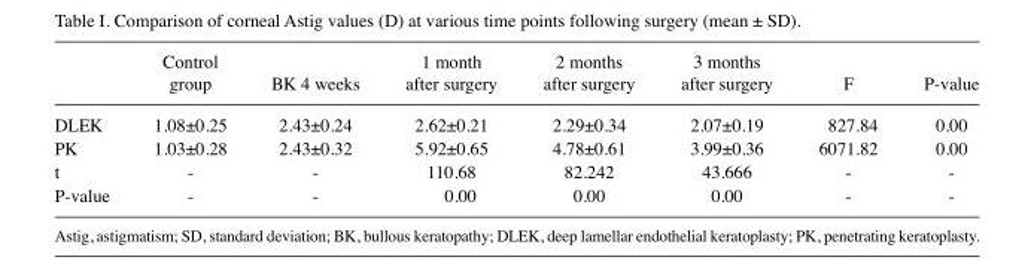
<table><thead><tr><td></td><td>Control group</td><td>BK 4 weeks</td><td>1 month after surgery</td><td>2 months after surgery</td><td>3 months after surgery</td><td>F</td><td>P-value</td></tr></thead><tbody><tr><td>DLEK</td><td>1.08±0.25</td><td>2.43±0.24</td><td>2.62±0.21</td><td>2.29±0.34</td><td>2.07±0.19</td><td>827.84</td><td>0.00</td></tr><tr><td>PK</td><td>1.03±0.28</td><td>2.43±0.32</td><td>5.92±0.65</td><td>4.78±0.61</td><td>3.99±0.36</td><td>6071.82</td><td>0.00</td></tr><tr><td>t</td><td>-</td><td>-</td><td>110.68</td><td>82.242</td><td>43.666</td><td>-</td><td>-</td></tr><tr><td>P-value</td><td>-</td><td>-</td><td>0.00</td><td>0.00</td><td>0.00</td><td>-</td><td>-</td></tr></tbody></table>